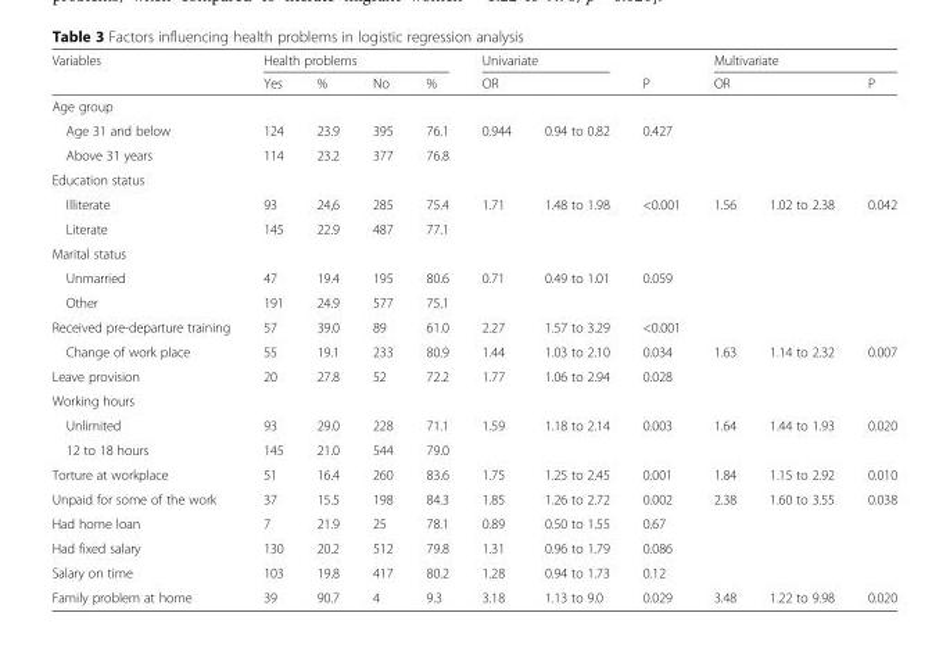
<table><thead><tr><td rowspan="2">Variables</td><td colspan="4">Health problems</td><td colspan="2">Univariate</td><td rowspan="2">P</td><td colspan="3">Multivariate</td></tr><tr><td>Yes</td><td>%</td><td>No</td><td>%</td><td>OR</td><td></td><td>OR</td><td></td><td>P</td></tr></thead><tbody><tr><td colspan="11">Age group</td></tr><tr><td>Age 31 and below</td><td>124</td><td>23.9</td><td>395</td><td>76.1</td><td>0.944</td><td>0.94 to 0.82</td><td>0.427</td><td></td><td></td><td></td></tr><tr><td>Above 31 years</td><td>114</td><td>23.2</td><td>377</td><td>76.8</td><td></td><td></td><td></td><td></td><td></td><td></td></tr><tr><td colspan="11">Education status</td></tr><tr><td>Illiterate</td><td>93</td><td>24,6</td><td>285</td><td>75.4</td><td>1.71</td><td>1.48 to 1.98</td><td>&lt;0.001</td><td>1.56</td><td>1.02 to 2.38</td><td>0.042</td></tr><tr><td>Literate</td><td>145</td><td>22.9</td><td>487</td><td>77.1</td><td></td><td></td><td></td><td></td><td></td><td></td></tr><tr><td colspan="11">Marital status</td></tr><tr><td>Unmarried</td><td>47</td><td>19.4</td><td>195</td><td>80.6</td><td>0.71</td><td>0.49 to 1.01</td><td>0.059</td><td></td><td></td><td></td></tr><tr><td>Other</td><td>191</td><td>24.9</td><td>577</td><td>75.1</td><td></td><td></td><td></td><td></td><td></td><td></td></tr><tr><td>Received pre-departure training</td><td>57</td><td>39.0</td><td>89</td><td>61.0</td><td>2.27</td><td>1.57 to 3.29</td><td>&lt;0.001</td><td></td><td></td><td></td></tr><tr><td>Change of work place</td><td>55</td><td>19.1</td><td>233</td><td>80.9</td><td>1.44</td><td>1.03 to 2.10</td><td>0.034</td><td>1.63</td><td>1.14 to 2.32</td><td>0.007</td></tr><tr><td>Leave provision</td><td>20</td><td>27.8</td><td>52</td><td>72.2</td><td>1.77</td><td>1.06 to 2.94</td><td>0.028</td><td></td><td></td><td></td></tr><tr><td colspan="11">Working hours</td></tr><tr><td>Unlimited</td><td>93</td><td>29.0</td><td>228</td><td>71.1</td><td>1.59</td><td>1.18 to 2.14</td><td>0.003</td><td>1.64</td><td>1.44 to 1.93</td><td>0.020</td></tr><tr><td>12 to 18 hours</td><td>145</td><td>21.0</td><td>544</td><td>79.0</td><td></td><td></td><td></td><td></td><td></td><td></td></tr><tr><td>Torture at workplace</td><td>51</td><td>16.4</td><td>260</td><td>83.6</td><td>1.75</td><td>1.25 to 2.45</td><td>0.001</td><td>1.84</td><td>1.15 to 2.92</td><td>0.010</td></tr><tr><td>Unpaid for some of the work</td><td>37</td><td>15.5</td><td>198</td><td>84.3</td><td>1.85</td><td>1.26 to 2.72</td><td>0.002</td><td>2.38</td><td>1.60 to 3.55</td><td>0.038</td></tr><tr><td>Had home loan</td><td>7</td><td>21.9</td><td>25</td><td>78.1</td><td>0.89</td><td>0.50 to 1.55</td><td>0.67</td><td></td><td></td><td></td></tr><tr><td>Had fixed salary</td><td>130</td><td>20.2</td><td>512</td><td>79.8</td><td>1.31</td><td>0.96 to 1.79</td><td>0.086</td><td></td><td></td><td></td></tr><tr><td>Salary on time</td><td>103</td><td>19.8</td><td>417</td><td>80.2</td><td>1.28</td><td>0.94 to 1.73</td><td>0.12</td><td></td><td></td><td></td></tr><tr><td>Family problem at home</td><td>39</td><td>90.7</td><td>4</td><td>9.3</td><td>3.18</td><td>1.13 to 9.0</td><td>0.029</td><td>3.48</td><td>1.22 to 9.98</td><td>0.020</td></tr></tbody></table>